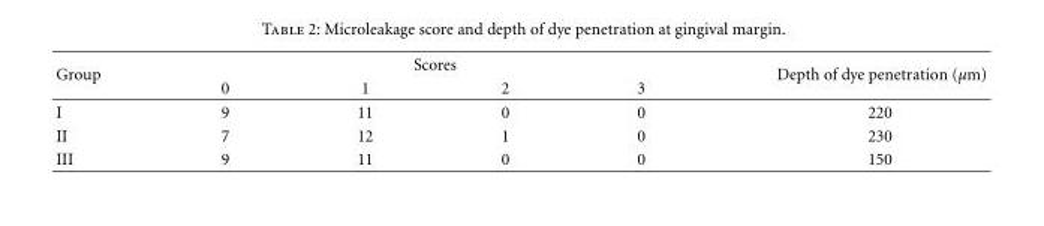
<table><thead><tr><td rowspan="2">Group</td><td colspan="4">Scores</td><td rowspan="2">Depth of dye penetration (µm)</td></tr><tr><td>0</td><td>1</td><td>2</td><td>3</td></tr></thead><tbody><tr><td>I</td><td>9</td><td>11</td><td>0</td><td>0</td><td>220</td></tr><tr><td>II</td><td>7</td><td>12</td><td>1</td><td>0</td><td>230</td></tr><tr><td>III</td><td>9</td><td>11</td><td>0</td><td>0</td><td>150</td></tr></tbody></table>